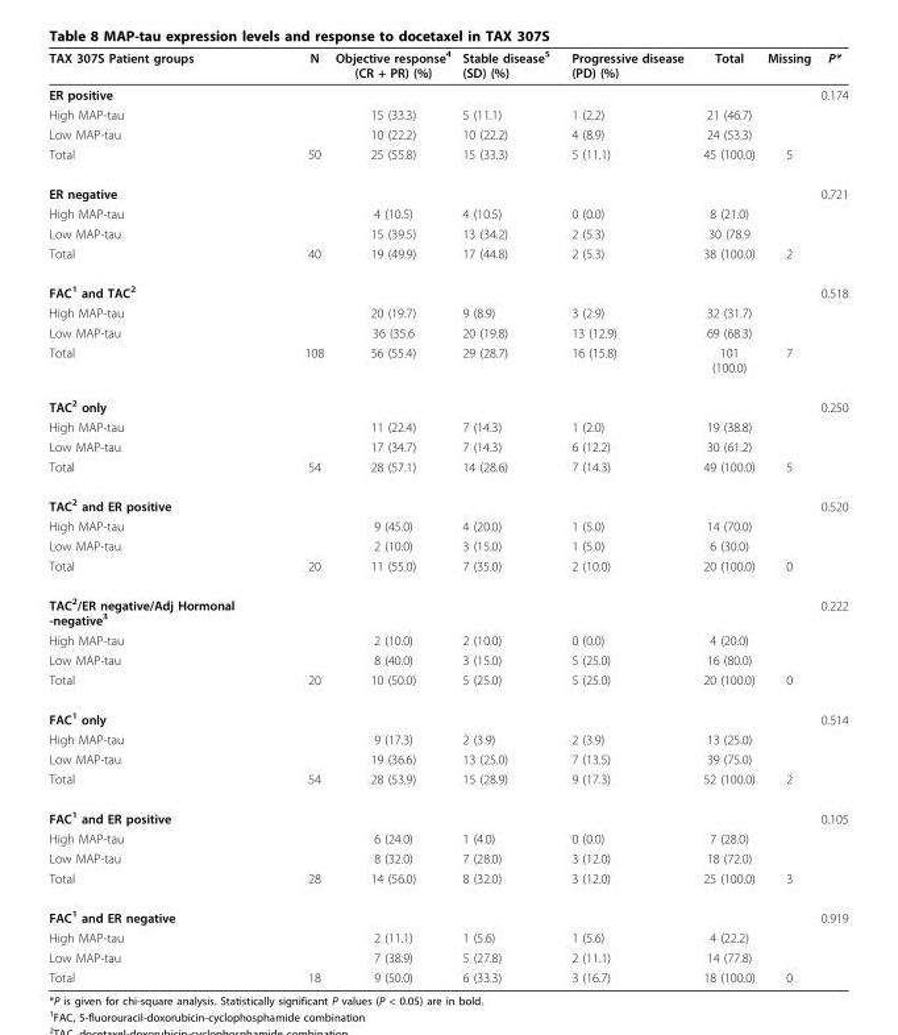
<table><thead><tr><td>TAX 307S Patient groups</td><td>N</td><td>Objective response<sup>4</sup> (CR + PR) (%)</td><td>Stable disease<sup>5</sup> (SD) (%)</td><td>Progressive disease (PD) (%)</td><td>Total</td><td>Missing</td><td>P*</td></tr></thead><tbody><tr><td>ER positive</td><td></td><td></td><td></td><td></td><td></td><td></td><td>0.174</td></tr><tr><td>High MAP-tau</td><td></td><td>15 (33.3)</td><td>5 (11.1)</td><td>1 (2.2)</td><td>21 (46.7)</td><td></td><td></td></tr><tr><td>Low MAP-tau</td><td></td><td>10 (22.2)</td><td>10 (22.2)</td><td>4 (8.9)</td><td>24 (53.3)</td><td></td><td></td></tr><tr><td>Total</td><td>50</td><td>25 (55.8)</td><td>15 (33.3)</td><td>5 (11.1)</td><td>45 (100.0)</td><td>5</td><td></td></tr><tr><td>ER negative</td><td></td><td></td><td></td><td></td><td></td><td></td><td>0.721</td></tr><tr><td>High MAP-tau</td><td></td><td>4 (10.5)</td><td>4 (10.5)</td><td>0 (0.0)</td><td>8 (21.0)</td><td></td><td></td></tr><tr><td>Low MAP-tau</td><td></td><td>15 (39.5)</td><td>13 (34.2)</td><td>2 (5.3)</td><td>30 (78.9</td><td></td><td></td></tr><tr><td>Total</td><td>40</td><td>19 (49.9)</td><td>17 (44.8)</td><td>2 (5.3)</td><td>38 (100.0)</td><td>2</td><td></td></tr><tr><td>FAC<sup>1</sup> and TAC<sup>2</sup></td><td></td><td></td><td></td><td></td><td></td><td></td><td>0.518</td></tr><tr><td>High MAP-tau</td><td></td><td>20 (19.7)</td><td>9 (8.9)</td><td>3 (2.9)</td><td>32 (31.7)</td><td></td><td></td></tr><tr><td>Low MAP-tau</td><td></td><td>36 (35.6</td><td>20 (19.8)</td><td>13 (12.9)</td><td>69 (68.3)</td><td></td><td></td></tr><tr><td>Total</td><td>108</td><td>56 (55.4)</td><td>29 (28.7)</td><td>16 (15.8)</td><td>101 (100.0)</td><td>7</td><td></td></tr><tr><td>TAC<sup>2</sup> only</td><td></td><td></td><td></td><td></td><td></td><td></td><td>0.250</td></tr><tr><td>High MAP-tau</td><td></td><td>11 (22.4)</td><td>7 (14.3)</td><td>1 (2.0)</td><td>19 (38.8)</td><td></td><td></td></tr><tr><td>Low MAP-tau</td><td></td><td>17 (34.7)</td><td>7 (14.3)</td><td>6 (12.2)</td><td>30 (61.2)</td><td></td><td></td></tr><tr><td>Total</td><td>54</td><td>28 (57.1)</td><td>14 (28.6)</td><td>7 (14.3)</td><td>49 (100.0)</td><td>5</td><td></td></tr><tr><td>TAC<sup>2</sup> and ER positive</td><td></td><td></td><td></td><td></td><td></td><td></td><td>0.520</td></tr><tr><td>High MAP-tau</td><td></td><td>9 (45.0)</td><td>4 (20.0)</td><td>1 (5.0)</td><td>14 (70.0)</td><td></td><td></td></tr><tr><td>Low MAP-tau</td><td></td><td>2 (10.0)</td><td>3 (15.0)</td><td>1 (5.0)</td><td>6 (30.0)</td><td></td><td></td></tr><tr><td>Total</td><td>20</td><td>11 (55.0)</td><td>7 (35.0)</td><td>2 (10.0)</td><td>20 (100.0)</td><td>0</td><td></td></tr><tr><td>TAC<sup>2</sup>/ER negative/Adj Hormonal -negative<sup>3</sup></td><td></td><td></td><td></td><td></td><td></td><td></td><td>0.222</td></tr><tr><td>High MAP-tau</td><td></td><td>2 (10.0)</td><td>2 (10.0)</td><td>0 (0.0)</td><td>4 (20.0)</td><td></td><td></td></tr><tr><td>Low MAP-tau</td><td></td><td>8 (40.0)</td><td>3 (15.0)</td><td>5 (25.0)</td><td>16 (80.0)</td><td></td><td></td></tr><tr><td>Total</td><td>20</td><td>10 (50.0)</td><td>5 (25.0)</td><td>5 (25.0)</td><td>20 (100.0)</td><td>0</td><td></td></tr><tr><td>FAC<sup>1</sup> only</td><td></td><td></td><td></td><td></td><td></td><td></td><td>0.514</td></tr><tr><td>High MAP-tau</td><td></td><td>9 (17.3)</td><td>2 (3.9)</td><td>2 (3.9)</td><td>13 (25.0)</td><td></td><td></td></tr><tr><td>Low MAP-tau</td><td></td><td>19 (36.6)</td><td>13 (25.0)</td><td>7 (13.5)</td><td>39 (75.0)</td><td></td><td></td></tr><tr><td>Total</td><td>54</td><td>28 (53.9)</td><td>15 (28.9)</td><td>9 (17.3)</td><td>52 (100.0)</td><td>2</td><td></td></tr><tr><td>FAC<sup>1</sup> and ER positive</td><td></td><td></td><td></td><td></td><td></td><td></td><td>0.105</td></tr><tr><td>High MAP-tau</td><td></td><td>6 (24.0)</td><td>1 (4.0)</td><td>0 (0.0)</td><td>7 (28.0)</td><td></td><td></td></tr><tr><td>Low MAP-tau</td><td></td><td>8 (32.0)</td><td>7 (28.0)</td><td>3 (12.0)</td><td>18 (72.0)</td><td></td><td></td></tr><tr><td>Total</td><td>28</td><td>14 (56.0)</td><td>8 (32.0)</td><td>3 (12.0)</td><td>25 (100.0)</td><td>3</td><td></td></tr><tr><td>FAC<sup>1</sup> and ER negative</td><td></td><td></td><td></td><td></td><td></td><td></td><td>0.919</td></tr><tr><td>High MAP-tau</td><td></td><td>2 (11.1)</td><td>1 (5.6)</td><td>1 (5.6)</td><td>4 (22.2)</td><td></td><td></td></tr><tr><td>Low MAP-tau</td><td></td><td>7 (38.9)</td><td>5 (27.8)</td><td>2 (11.1)</td><td>14 (77.8)</td><td></td><td></td></tr><tr><td>Total</td><td>18</td><td>9 (50.0)</td><td>6 (33.3)</td><td>3 (16.7)</td><td>18 (100.0)</td><td>0</td><td></td></tr></tbody></table>